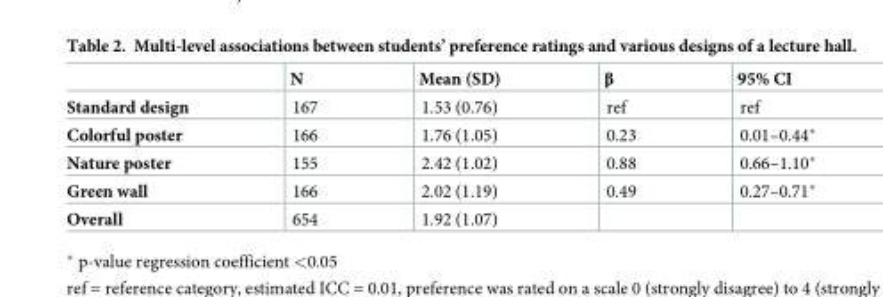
<table><thead><tr><td></td><td>N</td><td>Mean (SD)</td><td>β</td><td>95% CI</td></tr></thead><tbody><tr><td>Standard design</td><td>167</td><td>1.53 (0.76)</td><td>ref</td><td>ref</td></tr><tr><td>Colorful poster</td><td>166</td><td>1.76 (1.05)</td><td>0.23</td><td>0.01–0.44*</td></tr><tr><td>Nature poster</td><td>155</td><td>2.42 (1.02)</td><td>0.88</td><td>0.66–1.10*</td></tr><tr><td>Green wall</td><td>166</td><td>2.02 (1.19)</td><td>0.49</td><td>0.27–0.71*</td></tr><tr><td>Overall</td><td>654</td><td>1.92 (1.07)</td><td></td><td></td></tr></tbody></table>